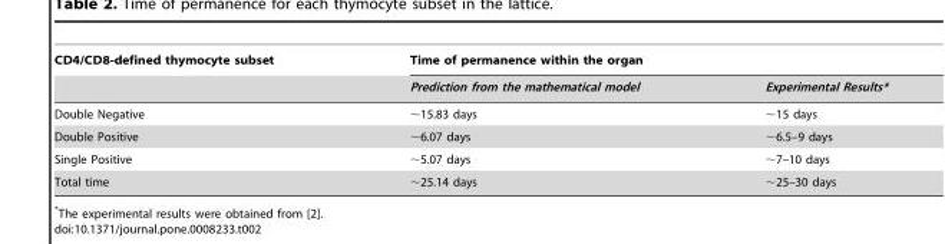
<table><thead><tr><td rowspan="2">CD4/CD8-defined thymocyte subset</td><td colspan="2">Time of permanence within the organ</td></tr><tr><td>Prediction from the mathematical model</td><td>Experimental Results*</td></tr></thead><tbody><tr><td>Double Negative</td><td>∼15.83 days</td><td>∼15 days</td></tr><tr><td>Double Positive</td><td>∼6.07 days</td><td>∼6.5–9 days</td></tr><tr><td>Single Positive</td><td>∼5.07 days</td><td>∼7–10 days</td></tr><tr><td>Total time</td><td>∼25.14 days</td><td>∼25–30 days</td></tr></tbody></table>